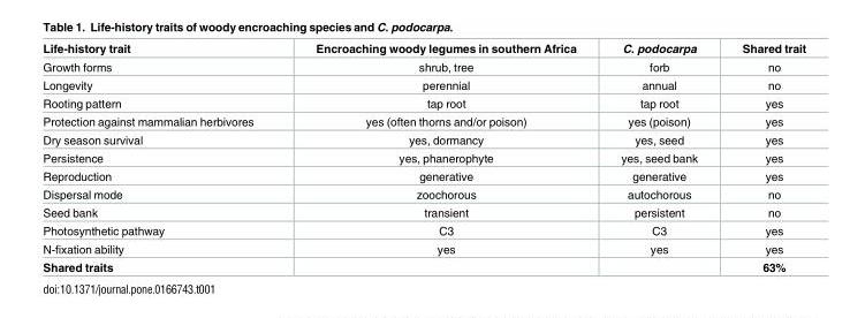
<table><thead><tr><td>Life-history trait</td><td>Encroaching woody legumes in southern Africa</td><td>C. podocarpa</td><td>Shared trait</td></tr></thead><tbody><tr><td>Growth forms</td><td>shrub, tree</td><td>forb</td><td>no</td></tr><tr><td>Longevity</td><td>perennial</td><td>annual</td><td>no</td></tr><tr><td>Rooting pattern</td><td>tap root</td><td>tap root</td><td>yes</td></tr><tr><td>Protection against mammalian herbivores</td><td>yes (often thorns and/or poison)</td><td>yes (poison)</td><td>yes</td></tr><tr><td>Dry season survival</td><td>yes, dormancy</td><td>yes, seed</td><td>yes</td></tr><tr><td>Persistence</td><td>yes, phanerophyte</td><td>yes, seed bank</td><td>yes</td></tr><tr><td>Reproduction</td><td>generative</td><td>generative</td><td>yes</td></tr><tr><td>Dispersal mode</td><td>zoochorous</td><td>autochorous</td><td>no</td></tr><tr><td>Seed bank</td><td>transient</td><td>persistent</td><td>no</td></tr><tr><td>Photosynthetic pathway</td><td>C3</td><td>C3</td><td>yes</td></tr><tr><td>N-fixation ability</td><td>yes</td><td>yes</td><td>yes</td></tr><tr><td>Shared traits</td><td></td><td></td><td>63%</td></tr></tbody></table>